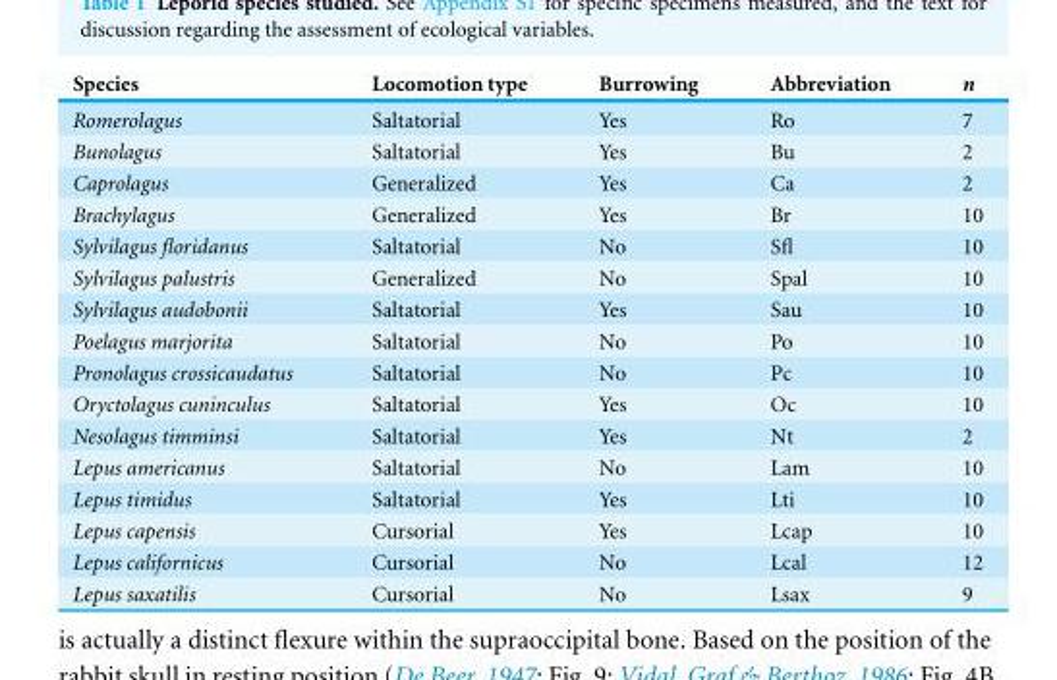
<table><thead><tr><td>Species</td><td>Locomotion type</td><td>Burrowing</td><td>Abbreviation</td><td>n</td></tr></thead><tbody><tr><td>Romerolagus</td><td>Saltatorial</td><td>Yes</td><td>Ro</td><td>7</td></tr><tr><td>Bunolagus</td><td>Saltatorial</td><td>Yes</td><td>Bu</td><td>2</td></tr><tr><td>Caprolagus</td><td>Generalized</td><td>Yes</td><td>Ca</td><td>2</td></tr><tr><td>Brachylagus</td><td>Generalized</td><td>Yes</td><td>Br</td><td>10</td></tr><tr><td>Sylvilagus floridanus</td><td>Saltatorial</td><td>No</td><td>Sfl</td><td>10</td></tr><tr><td>Sylvilagus palustris</td><td>Generalized</td><td>No</td><td>Spal</td><td>10</td></tr><tr><td>Sylvilagus audobonii</td><td>Saltatorial</td><td>Yes</td><td>Sau</td><td>10</td></tr><tr><td>Poelagus marjorita</td><td>Saltatorial</td><td>No</td><td>Po</td><td>10</td></tr><tr><td>Pronolagus crossicaudatus</td><td>Saltatorial</td><td>No</td><td>Pc</td><td>10</td></tr><tr><td>Oryctolagus cuninculus</td><td>Saltatorial</td><td>Yes</td><td>Oc</td><td>10</td></tr><tr><td>Nesolagus timminsi</td><td>Saltatorial</td><td>Yes</td><td>Nt</td><td>2</td></tr><tr><td>Lepus americanus</td><td>Saltatorial</td><td>No</td><td>Lam</td><td>10</td></tr><tr><td>Lepus timidus</td><td>Saltatorial</td><td>Yes</td><td>Lti</td><td>10</td></tr><tr><td>Lepus capensis</td><td>Cursorial</td><td>Yes</td><td>Lcap</td><td>10</td></tr><tr><td>Lepus californicus</td><td>Cursorial</td><td>No</td><td>Lcal</td><td>12</td></tr><tr><td>Lepus saxatilis</td><td>Cursorial</td><td>No</td><td>Lsax</td><td>9</td></tr></tbody></table>